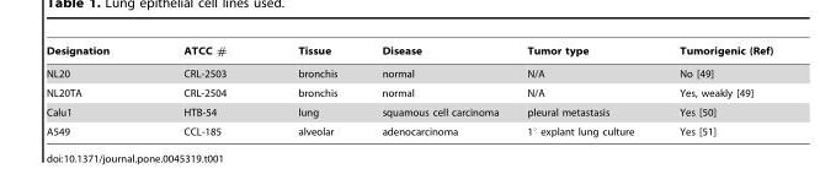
<table><thead><tr><td>Designation</td><td>ATCC #</td><td>Tissue</td><td>Disease</td><td>Tumor type</td><td>Tumorigenic (Ref)</td></tr></thead><tbody><tr><td>NL20</td><td>CRL-2503</td><td>bronchis</td><td>normal</td><td>N/A</td><td>No [49]</td></tr><tr><td>NL20TA</td><td>CRL-2504</td><td>bronchis</td><td>normal</td><td>N/A</td><td>Yes, weakly [49]</td></tr><tr><td>Calu1</td><td>HTB-54</td><td>lung</td><td>squamous cell carcinoma</td><td>pleural metastasis</td><td>Yes [50]</td></tr><tr><td>A549</td><td>CCL-185</td><td>alveolar</td><td>adenocarcinoma</td><td>1° explant lung culture</td><td>Yes [51]</td></tr></tbody></table>